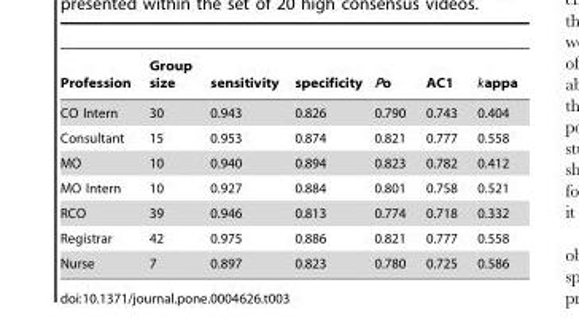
<table><thead><tr><td>Profession</td><td>Group size</td><td>sensitivity</td><td>specificity</td><td>Po</td><td>AC1</td><td>kappa</td></tr></thead><tbody><tr><td>CO Intern</td><td>30</td><td>0.943</td><td>0.826</td><td>0.790</td><td>0.743</td><td>0.404</td></tr><tr><td>Consultant</td><td>15</td><td>0.953</td><td>0.874</td><td>0.821</td><td>0.777</td><td>0.558</td></tr><tr><td>MO</td><td>10</td><td>0.940</td><td>0.894</td><td>0.823</td><td>0.782</td><td>0.412</td></tr><tr><td>MO Intern</td><td>10</td><td>0.927</td><td>0.884</td><td>0.801</td><td>0.758</td><td>0.521</td></tr><tr><td>RCO</td><td>39</td><td>0.946</td><td>0.813</td><td>0.774</td><td>0.718</td><td>0.332</td></tr><tr><td>Registrar</td><td>42</td><td>0.975</td><td>0.886</td><td>0.821</td><td>0.777</td><td>0.558</td></tr><tr><td>Nurse</td><td>7</td><td>0.897</td><td>0.823</td><td>0.780</td><td>0.725</td><td>0.586</td></tr></tbody></table>